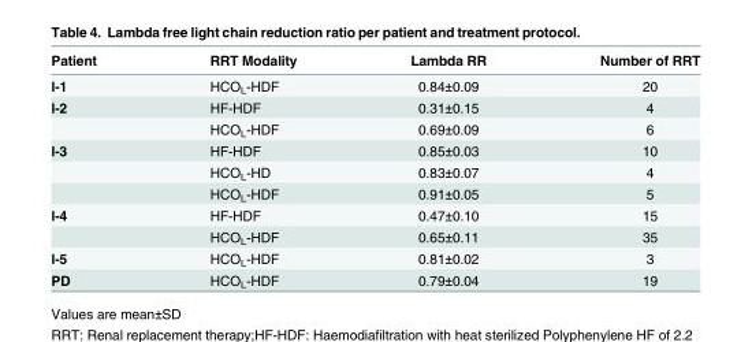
<table><thead><tr><td>Patient</td><td>RRT Modality</td><td>Lambda RR</td><td>Number of RRT</td></tr></thead><tbody><tr><td>l-1</td><td>HCO<sub>L</sub>-HDF</td><td>0.84±0.09</td><td>20</td></tr><tr><td rowspan="2">l-2</td><td>HF-HDF</td><td>0.31±0.15</td><td>4</td></tr><tr><td>HCO<sub>L</sub>-HDF</td><td>0.69±0.09</td><td>6</td></tr><tr><td rowspan="3">l-3</td><td>HF-HDF</td><td>0.85±0.03</td><td>10</td></tr><tr><td>HCO<sub>L</sub>-HD</td><td>0.83±0.07</td><td>4</td></tr><tr><td>HCO<sub>L</sub>-HDF</td><td>0.91±0.05</td><td>5</td></tr><tr><td rowspan="2">l-4</td><td>HF-HDF</td><td>0.47±0.10</td><td>15</td></tr><tr><td>HCO<sub>L</sub>-HDF</td><td>0.65±0.11</td><td>35</td></tr><tr><td>l-5</td><td>HCO<sub>L</sub>-HDF</td><td>0.81±0.02</td><td>3</td></tr><tr><td>PD</td><td>HCO<sub>L</sub>-HDF</td><td>0.79±0.04</td><td>19</td></tr></tbody></table>